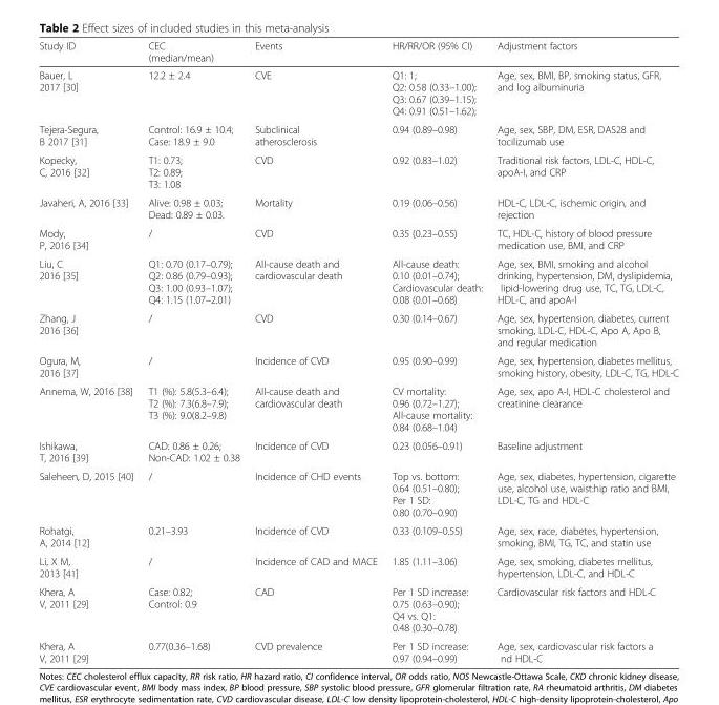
<table><thead><tr><td>Study ID</td><td>CEC (median/mean)</td><td>Events</td><td>HR/RR/OR (95% CI)</td><td>Adjustment factors</td></tr></thead><tbody><tr><td>Bauer, L 2017 [30]</td><td>12.2 ± 2.4</td><td>CVE</td><td>Q1: 1; Q2: 0.58 (0.33–1.00); Q3: 0.67 (0.39–1.15); Q4: 0.91 (0.51–1.62);</td><td>Age, sex, BMI, BP, smoking status, GFR, and log albuminuria</td></tr><tr><td>Tejera-Segura, B 2017 [31]</td><td>Control: 16.9 ± 10.4; Case: 18.9 ± 9.0</td><td>Subclinical atherosclerosis</td><td>0.94 (0.89–0.98)</td><td>Age, sex, SBP, DM, ESR, DAS28 and tocilizumab use</td></tr><tr><td>Kopecky, C, 2016 [32]</td><td>T1: 0.73; T2: 0.89; T3: 1.08</td><td>CVD</td><td>0.92 (0.83–1.02)</td><td>Traditional risk factors, LDL-C, HDL-C, apoA-I, and CRP</td></tr><tr><td>Javaheri, A, 2016 [33]</td><td>Alive: 0.98 ± 0.03; Dead: 0.89 ± 0.03.</td><td>Mortality</td><td>0.19 (0.06–0.56)</td><td>HDL-C, LDL-C, ischemic origin, and rejection</td></tr><tr><td>Mody, P, 2016 [34]</td><td>/</td><td>CVD</td><td>0.35 (0.23–0.55)</td><td>TC, HDL-C, history of blood pressure medication use, BMI, and CRP</td></tr><tr><td>Liu, C 2016 [35]</td><td>Q1: 0.70 (0.17–0.79); Q2: 0.86 (0.79–0.93); Q3: 1.00 (0.93–1.07); Q4: 1.15 (1.07–2.01)</td><td>All-cause death and cardiovascular death</td><td>All-cause death: 0.10 (0.01–0.74); Cardiovascular death: 0.08 (0.01–0.68)</td><td>Age, sex, BMI, smoking and alcohol drinking, hypertension, DM, dyslipidemia, lipid-lowering drug use, TC, TG, LDL-C, HDL-C, and apoA-I</td></tr><tr><td>Zhang, J 2016 [36]</td><td>/</td><td>CVD</td><td>0.30 (0.14–0.67)</td><td>Age, sex, hypertension, diabetes, current smoking, LDL-C, HDL-C, Apo A, Apo B, and regular medication</td></tr><tr><td>Ogura, M, 2016 [37]</td><td>/</td><td>Incidence of CVD</td><td>0.95 (0.90–0.99)</td><td>Age, sex, hypertension, diabetes mellitus, smoking history, obesity, LDL-C, TG, HDL-C</td></tr><tr><td>Annema, W, 2016 [38]</td><td>T1 (%): 5.8(5.3–6.4); T2 (%): 7.3(6.8–7.9); T3 (%): 9.0(8.2–9.8)</td><td>All-cause death and cardiovascular death</td><td>CV mortality: 0.96 (0.72–1.27); All-cause mortality: 0.84 (0.68–1.04)</td><td>Age, sex, apo A-I, HDL-C cholesterol and creatinine clearance</td></tr><tr><td>Ishikawa, T, 2016 [39]</td><td>CAD: 0.86 ± 0.26; Non-CAD: 1.02 ± 0.38</td><td>Incidence of CVD</td><td>0.23 (0.056–0.91)</td><td>Baseline adjustment</td></tr><tr><td>Saleheen, D, 2015 [40]</td><td>/</td><td>Incidence of CHD events</td><td>Top vs. bottom: 0.64 (0.51–0.80); Per 1 SD: 0.80 (0.70–0.90)</td><td>Age, sex, diabetes, hypertension, cigarette use, alcohol use, waist:hip ratio and BMI, LDL-C, TG and HDL-C</td></tr><tr><td>Rohatgi, A, 2014 [12]</td><td>0.21–3.93</td><td>Incidence of CVD</td><td>0.33 (0.109–0.55)</td><td>Age, sex, race, diabetes, hypertension, smoking, BMI, TG, TC, and statin use</td></tr><tr><td>Li, X M, 2013 [41]</td><td>/</td><td>Incidence of CAD and MACE</td><td>1.85 (1.11–3.06)</td><td>Age, sex, smoking, diabetes mellitus, hypertension, LDL-C, and HDL-C</td></tr><tr><td>Khera, A V, 2011 [29]</td><td>Case: 0.82; Control: 0.9</td><td>CAD</td><td>Per 1 SD increase: 0.75 (0.63–0.90); Q4 vs. Q1: 0.48 (0.30–0.78)</td><td>Cardiovascular risk factors and HDL-C</td></tr><tr><td>Khera, A V, 2011 [29]</td><td>0.77(0.36–1.68)</td><td>CVD prevalence</td><td>Per 1 SD increase: 0.97 (0.94–0.99)</td><td>Age, sex, cardiovascular risk factors a nd HDL-C</td></tr></tbody></table>